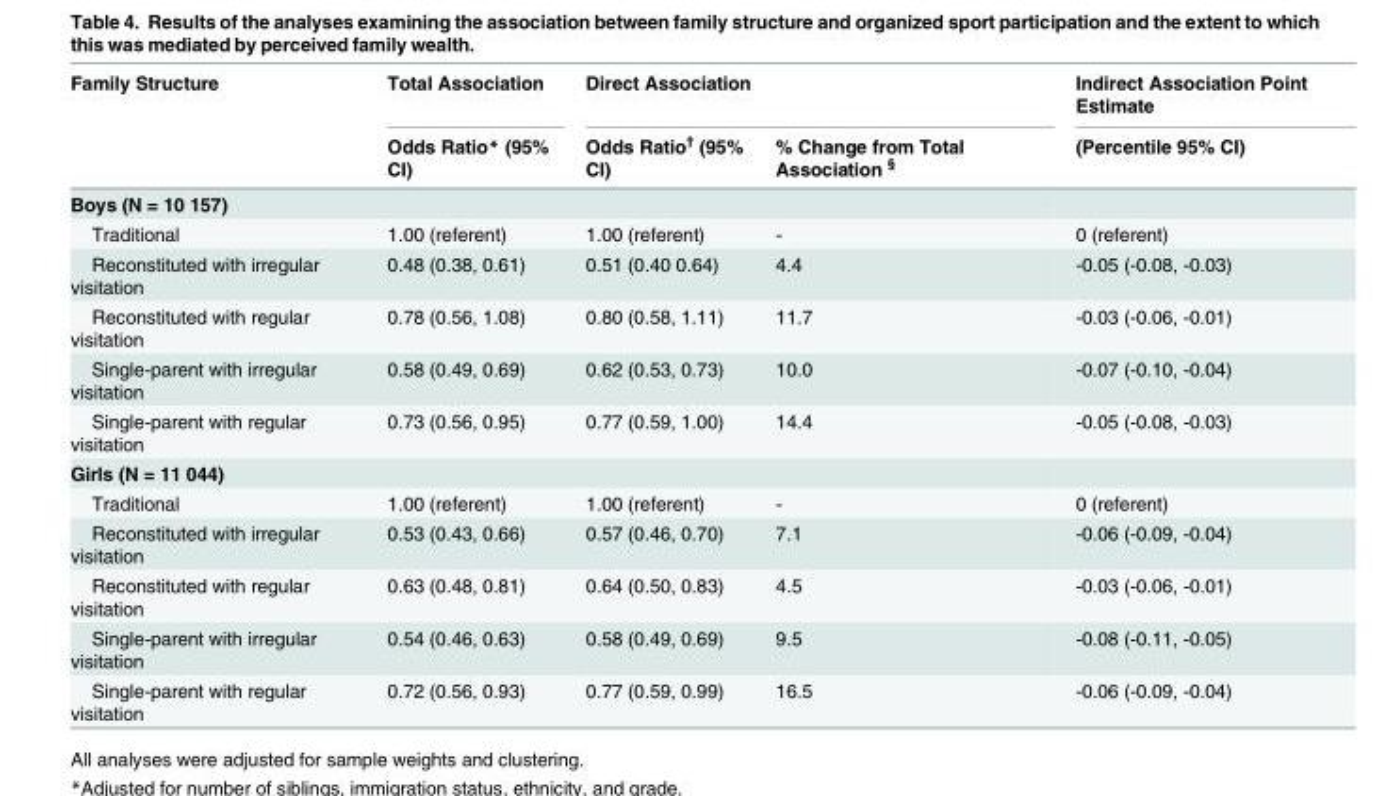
<table><thead><tr><td rowspan="2">Family Structure</td><td rowspan="2">Total Association Odds Ratio* (95% CI)</td><td colspan="2">Direct Association</td><td rowspan="2">Indirect Association Point Estimate (Percentile 95% CI)</td></tr><tr><td>Odds Ratio<sup>†</sup> (95% CI)</td><td>% Change from Total Association <sup>§</sup></td></tr></thead><tbody><tr><td colspan="5">Boys (N = 10 157)</td></tr><tr><td>Traditional</td><td>1.00 (referent)</td><td>1.00 (referent)</td><td>-</td><td>0 (referent)</td></tr><tr><td>Reconstituted with irregular visitation</td><td>0.48 (0.38, 0.61)</td><td>0.51 (0.40 0.64)</td><td>4.4</td><td>-0.05 (-0.08, -0.03)</td></tr><tr><td>Reconstituted with regular visitation</td><td>0.78 (0.56, 1.08)</td><td>0.80 (0.58, 1.11)</td><td>11.7</td><td>-0.03 (-0.06, -0.01)</td></tr><tr><td>Single-parent with irregular visitation</td><td>0.58 (0.49, 0.69)</td><td>0.62 (0.53, 0.73)</td><td>10.0</td><td>-0.07 (-0.10, -0.04)</td></tr><tr><td>Single-parent with regular visitation</td><td>0.73 (0.56, 0.95)</td><td>0.77 (0.59, 1.00)</td><td>14.4</td><td>-0.05 (-0.08, -0.03)</td></tr><tr><td colspan="5">Girls (N = 11 044)</td></tr><tr><td>Traditional</td><td>1.00 (referent)</td><td>1.00 (referent)</td><td>-</td><td>0 (referent)</td></tr><tr><td>Reconstituted with irregular visitation</td><td>0.53 (0.43, 0.66)</td><td>0.57 (0.46, 0.70)</td><td>7.1</td><td>-0.06 (-0.09, -0.04)</td></tr><tr><td>Reconstituted with regular visitation</td><td>0.63 (0.48, 0.81)</td><td>0.64 (0.50, 0.83)</td><td>4.5</td><td>-0.03 (-0.06, -0.01)</td></tr><tr><td>Single-parent with irregular visitation</td><td>0.54 (0.46, 0.63)</td><td>0.58 (0.49, 0.69)</td><td>9.5</td><td>-0.08 (-0.11, -0.05)</td></tr><tr><td>Single-parent with regular visitation</td><td>0.72 (0.56, 0.93)</td><td>0.77 (0.59, 0.99)</td><td>16.5</td><td>-0.06 (-0.09, -0.04)</td></tr></tbody></table>